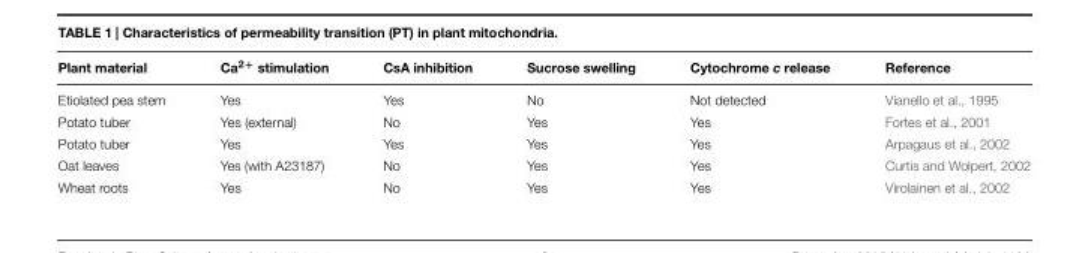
<table><thead><tr><td>Plant material</td><td>Ca<sup>2+</sup> stimulation</td><td>CsA inhibition</td><td>Sucrose swelling</td><td>Cytochrome c release</td><td>Reference</td></tr></thead><tbody><tr><td>Etiolated pea stem</td><td>Yes</td><td>Yes</td><td>No</td><td>Not detected</td><td>Vianello et al., 1995</td></tr><tr><td>Potato tuber</td><td>Yes (external)</td><td>No</td><td>Yes</td><td>Yes</td><td>Fortes et al., 2001</td></tr><tr><td>Potato tuber</td><td>Yes</td><td>Yes</td><td>Yes</td><td>Yes</td><td>Arpagaus et al., 2002</td></tr><tr><td>Oat leaves</td><td>Yes (with A23187)</td><td>No</td><td>Yes</td><td>Yes</td><td>Curtis and Wolpert, 2002</td></tr><tr><td>Wheat roots</td><td>Yes</td><td>No</td><td>Yes</td><td>Yes</td><td>Virolainen et al., 2002</td></tr></tbody></table>